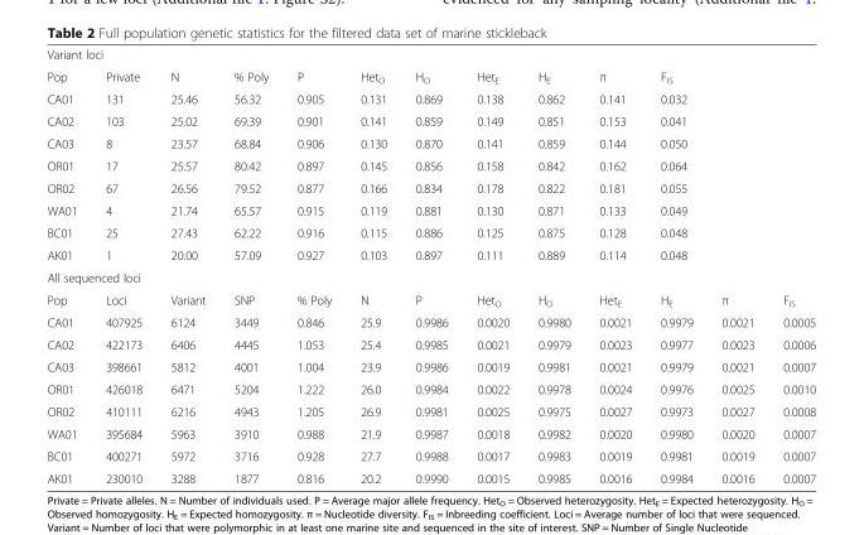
<table><tbody><tr><td colspan="13">Variant loci</td></tr><tr><td>Pop</td><td>Private</td><td>N</td><td>% Poly</td><td>P</td><td>Het<sub>O</sub></td><td>H<sub>O</sub></td><td>Het<sub>E</sub></td><td>H<sub>E</sub></td><td>π</td><td>F<sub>IS</sub></td><td colspan="2"></td></tr><tr><td>CA01</td><td>131</td><td>25.46</td><td>56.32</td><td>0.905</td><td>0.131</td><td>0.869</td><td>0.138</td><td>0.862</td><td>0.141</td><td>0.032</td><td colspan="2"></td></tr><tr><td>CA02</td><td>103</td><td>25.02</td><td>69.39</td><td>0.901</td><td>0.141</td><td>0.859</td><td>0.149</td><td>0.851</td><td>0.153</td><td>0.041</td><td colspan="2"></td></tr><tr><td>CA03</td><td>8</td><td>23.57</td><td>68.84</td><td>0.906</td><td>0.130</td><td>0.870</td><td>0.141</td><td>0.859</td><td>0.144</td><td>0.050</td><td colspan="2"></td></tr><tr><td>OR01</td><td>17</td><td>25.57</td><td>80.42</td><td>0.897</td><td>0.145</td><td>0.856</td><td>0.158</td><td>0.842</td><td>0.162</td><td>0.064</td><td colspan="2"></td></tr><tr><td>OR02</td><td>67</td><td>26.56</td><td>79.52</td><td>0.877</td><td>0.166</td><td>0.834</td><td>0.178</td><td>0.822</td><td>0.181</td><td>0.055</td><td colspan="2"></td></tr><tr><td>WA01</td><td>4</td><td>21.74</td><td>65.57</td><td>0.915</td><td>0.119</td><td>0.881</td><td>0.130</td><td>0.871</td><td>0.133</td><td>0.049</td><td colspan="2"></td></tr><tr><td>BC01</td><td>25</td><td>27.43</td><td>62.22</td><td>0.916</td><td>0.115</td><td>0.886</td><td>0.125</td><td>0.875</td><td>0.128</td><td>0.048</td><td colspan="2"></td></tr><tr><td>AK01</td><td>1</td><td>20.00</td><td>57.09</td><td>0.927</td><td>0.103</td><td>0.897</td><td>0.111</td><td>0.889</td><td>0.114</td><td>0.048</td><td colspan="2"></td></tr><tr><td colspan="13">All sequenced loci</td></tr><tr><td>Pop</td><td>Loci</td><td>Variant</td><td>SNP</td><td>% Poly</td><td>N</td><td>P</td><td>Het<sub>O</sub></td><td>H<sub>O</sub></td><td>Het<sub>E</sub></td><td>H<sub>E</sub></td><td>π</td><td>F<sub>IS</sub></td></tr><tr><td>CA01</td><td>407925</td><td>6124</td><td>3449</td><td>0.846</td><td>25.9</td><td>0.9986</td><td>0.0020</td><td>0.9980</td><td>0.0021</td><td>0.9979</td><td>0.0021</td><td>0.0005</td></tr><tr><td>CA02</td><td>422173</td><td>6406</td><td>4445</td><td>1.053</td><td>25.4</td><td>0.9985</td><td>0.0021</td><td>0.9979</td><td>0.0023</td><td>0.9977</td><td>0.0023</td><td>0.0006</td></tr><tr><td>CA03</td><td>398661</td><td>5812</td><td>4001</td><td>1.004</td><td>23.9</td><td>0.9986</td><td>0.0019</td><td>0.9981</td><td>0.0021</td><td>0.9979</td><td>0.0021</td><td>0.0007</td></tr><tr><td>OR01</td><td>426018</td><td>6471</td><td>5204</td><td>1.222</td><td>26.0</td><td>0.9984</td><td>0.0022</td><td>0.9978</td><td>0.0024</td><td>0.9976</td><td>0.0025</td><td>0.0010</td></tr><tr><td>OR02</td><td>410111</td><td>6216</td><td>4943</td><td>1.205</td><td>26.9</td><td>0.9981</td><td>0.0025</td><td>0.9975</td><td>0.0027</td><td>0.9973</td><td>0.0027</td><td>0.0008</td></tr><tr><td>WA01</td><td>395684</td><td>5963</td><td>3910</td><td>0.988</td><td>21.9</td><td>0.9987</td><td>0.0018</td><td>0.9982</td><td>0.0020</td><td>0.9980</td><td>0.0020</td><td>0.0007</td></tr><tr><td>BC01</td><td>400271</td><td>5972</td><td>3716</td><td>0.928</td><td>27.7</td><td>0.9988</td><td>0.0017</td><td>0.9983</td><td>0.0019</td><td>0.9981</td><td>0.0019</td><td>0.0007</td></tr><tr><td>AK01</td><td>230010</td><td>3288</td><td>1877</td><td>0.816</td><td>20.2</td><td>0.9990</td><td>0.0015</td><td>0.9985</td><td>0.0016</td><td>0.9984</td><td>0.0016</td><td>0.0007</td></tr></tbody></table>